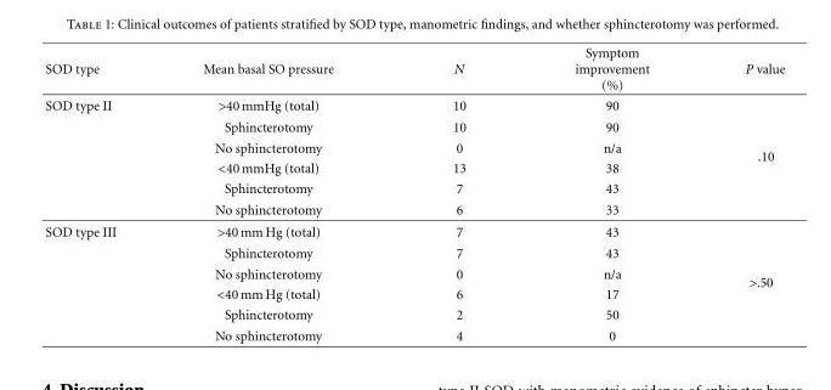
<table><thead><tr><td>SOD type</td><td>Mean basal SO pressure</td><td>N</td><td>Symptom improvement (%)</td><td>P value</td></tr></thead><tbody><tr><td rowspan="6">SOD type II</td><td>&gt;40 mmHg (total)</td><td>10</td><td>90</td><td></td></tr><tr><td>Sphincterotomy</td><td>10</td><td>90</td><td></td></tr><tr><td>No sphincterotomy</td><td>0</td><td>n/a</td><td rowspan="2">.10</td></tr><tr><td>&lt;40 mmHg (total)</td><td>13</td><td>38</td></tr><tr><td>Sphincterotomy</td><td>7</td><td>43</td><td></td></tr><tr><td>No sphincterotomy</td><td>6</td><td>33</td><td></td></tr><tr><td rowspan="6">SOD type III</td><td>&gt;40 mm Hg (total)</td><td>7</td><td>43</td><td></td></tr><tr><td>Sphincterotomy</td><td>7</td><td>43</td><td></td></tr><tr><td>No sphincterotomy</td><td>0</td><td>n/a</td><td rowspan="2">&gt;.50</td></tr><tr><td>&lt;40 mm Hg (total)</td><td>6</td><td>17</td></tr><tr><td>Sphincterotomy</td><td>2</td><td>50</td><td></td></tr><tr><td>No sphincterotomy</td><td>4</td><td>0</td><td></td></tr></tbody></table>